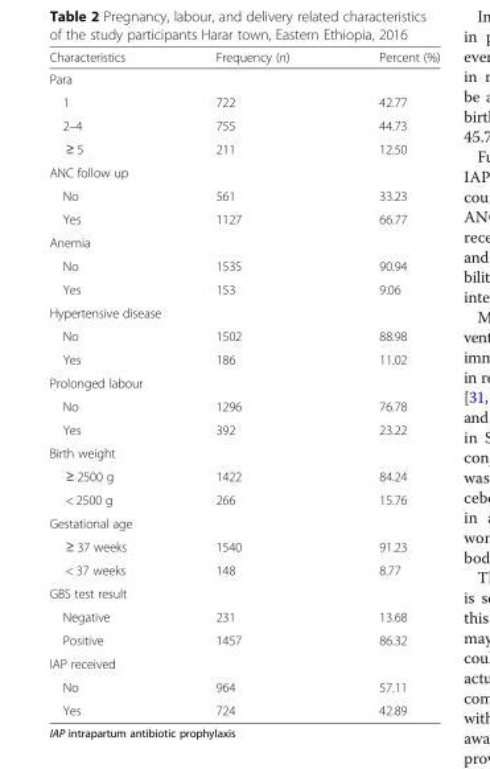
<table><thead><tr><td>Characteristics</td><td>Frequency (n)</td><td>Percent (%)</td></tr></thead><tbody><tr><td colspan="3">Para</td></tr><tr><td>1</td><td>722</td><td>42.77</td></tr><tr><td>2–4</td><td>755</td><td>44.73</td></tr><tr><td>≥ 5</td><td>211</td><td>12.50</td></tr><tr><td colspan="3">ANC follow up</td></tr><tr><td>No</td><td>561</td><td>33.23</td></tr><tr><td>Yes</td><td>1127</td><td>66.77</td></tr><tr><td colspan="3">Anemia</td></tr><tr><td>No</td><td>1535</td><td>90.94</td></tr><tr><td>Yes</td><td>153</td><td>9.06</td></tr><tr><td colspan="3">Hypertensive disease</td></tr><tr><td>No</td><td>1502</td><td>88.98</td></tr><tr><td>Yes</td><td>186</td><td>11.02</td></tr><tr><td colspan="3">Prolonged labour</td></tr><tr><td>No</td><td>1296</td><td>76.78</td></tr><tr><td>Yes</td><td>392</td><td>23.22</td></tr><tr><td colspan="3">Birth weight</td></tr><tr><td>≥ 2500 g</td><td>1422</td><td>84.24</td></tr><tr><td>&lt; 2500 g</td><td>266</td><td>15.76</td></tr><tr><td colspan="3">Gestational age</td></tr><tr><td>≥ 37 weeks</td><td>1540</td><td>91.23</td></tr><tr><td>&lt; 37 weeks</td><td>148</td><td>8.77</td></tr><tr><td colspan="3">GBS test result</td></tr><tr><td>Negative</td><td>231</td><td>13.68</td></tr><tr><td>Positive</td><td>1457</td><td>86.32</td></tr><tr><td colspan="3">IAP received</td></tr><tr><td>No</td><td>964</td><td>57.11</td></tr><tr><td>Yes</td><td>724</td><td>42.89</td></tr></tbody></table>